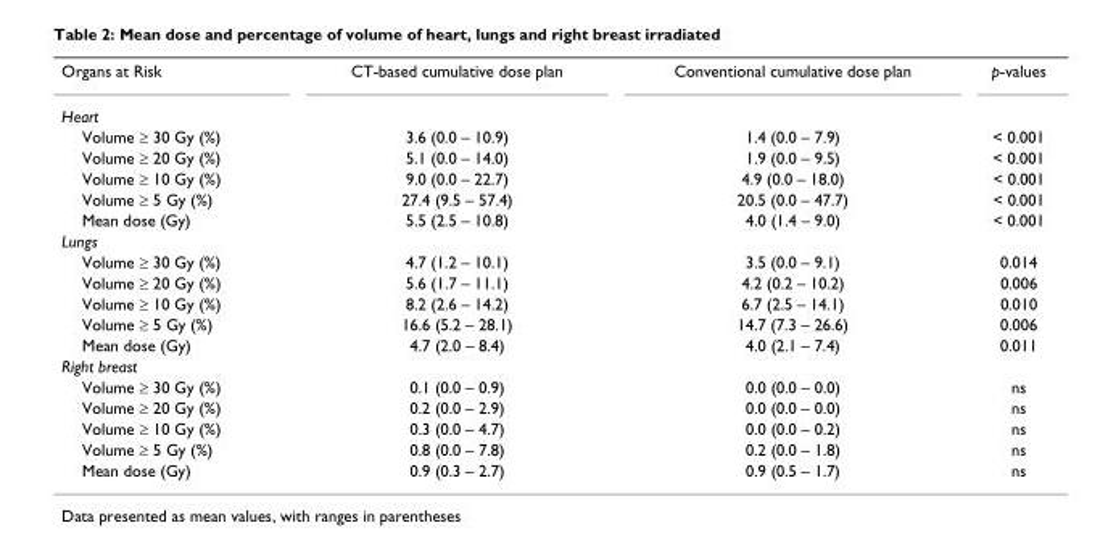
<table><tbody><tr><td>Organs at Risk</td><td>CT-based cumulative dose plan</td><td>Conventional cumulative dose plan</td><td>p-values</td></tr><tr><td colspan="4">Heart</td></tr><tr><td>Volume ≥ 30 Gy (%)</td><td>3.6 (0.0 – 10.9)</td><td>1.4 (0.0 – 7.9)</td><td>&lt; 0.001</td></tr><tr><td>Volume ≥ 20 Gy (%)</td><td>5.1 (0.0 – 14.0)</td><td>1.9 (0.0 – 9.5)</td><td>&lt; 0.001</td></tr><tr><td>Volume ≥ 10 Gy (%)</td><td>9.0 (0.0 – 22.7)</td><td>4.9 (0.0 – 18.0)</td><td>&lt; 0.001</td></tr><tr><td>Volume ≥ 5 Gy (%)</td><td>27.4 (9.5 – 57.4)</td><td>20.5 (0.0 – 47.7)</td><td>&lt; 0.001</td></tr><tr><td>Mean dose (Gy)</td><td>5.5 (2.5 – 10.8)</td><td>4.0 (1.4 – 9.0)</td><td>&lt; 0.001</td></tr><tr><td colspan="4">Lungs</td></tr><tr><td>Volume ≥ 30 Gy (%)</td><td>4.7 (1.2 – 10.1)</td><td>3.5 (0.0 – 9.1)</td><td>0.014</td></tr><tr><td>Volume ≥ 20 Gy (%)</td><td>5.6 (1.7 – 11.1)</td><td>4.2 (0.2 – 10.2)</td><td>0.006</td></tr><tr><td>Volume ≥ 10 Gy (%)</td><td>8.2 (2.6 – 14.2)</td><td>6.7 (2.5 – 14.1)</td><td>0.010</td></tr><tr><td>Volume ≥ 5 Gy (%)</td><td>16.6 (5.2 – 28.1)</td><td>14.7 (7.3 – 26.6)</td><td>0.006</td></tr><tr><td>Mean dose (Gy)</td><td>4.7 (2.0 – 8.4)</td><td>4.0 (2.1 – 7.4)</td><td>0.011</td></tr><tr><td colspan="4">Right breast</td></tr><tr><td>Volume ≥ 30 Gy (%)</td><td>0.1 (0.0 – 0.9)</td><td>0.0 (0.0 – 0.0)</td><td>ns</td></tr><tr><td>Volume ≥ 20 Gy (%)</td><td>0.2 (0.0 – 2.9)</td><td>0.0 (0.0 – 0.0)</td><td>ns</td></tr><tr><td>Volume ≥ 10 Gy (%)</td><td>0.3 (0.0 – 4.7)</td><td>0.0 (0.0 – 0.2)</td><td>ns</td></tr><tr><td>Volume ≥ 5 Gy (%)</td><td>0.8 (0.0 – 7.8)</td><td>0.2 (0.0 – 1.8)</td><td>ns</td></tr><tr><td>Mean dose (Gy)</td><td>0.9 (0.3 – 2.7)</td><td>0.9 (0.5 – 1.7)</td><td>ns</td></tr></tbody></table>